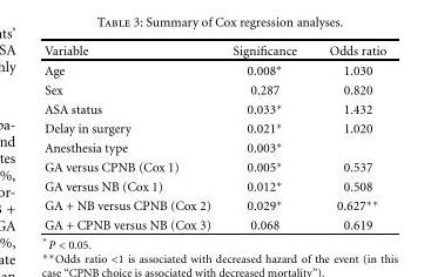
<table><thead><tr><td>Variable</td><td>Significance</td><td>Odds ratio</td></tr></thead><tbody><tr><td>Age</td><td>0.008∗</td><td>1.030</td></tr><tr><td>Sex</td><td>0.287</td><td>0.820</td></tr><tr><td>ASA status</td><td>0.033∗</td><td>1.432</td></tr><tr><td>Delay in surgery</td><td>0.021∗</td><td>1.020</td></tr><tr><td>Anesthesia type</td><td>0.003∗</td><td></td></tr><tr><td>GA versus CPNB (Cox 1)</td><td>0.005∗</td><td>0.537</td></tr><tr><td>GA versus NB (Cox 1)</td><td>0.012∗</td><td>0.508</td></tr><tr><td>GA + NB versus CPNB (Cox 2)</td><td>0.029∗</td><td>0.627∗∗</td></tr><tr><td>GA + CPNB versus NB (Cox 3)</td><td>0.068</td><td>0.619</td></tr></tbody></table>